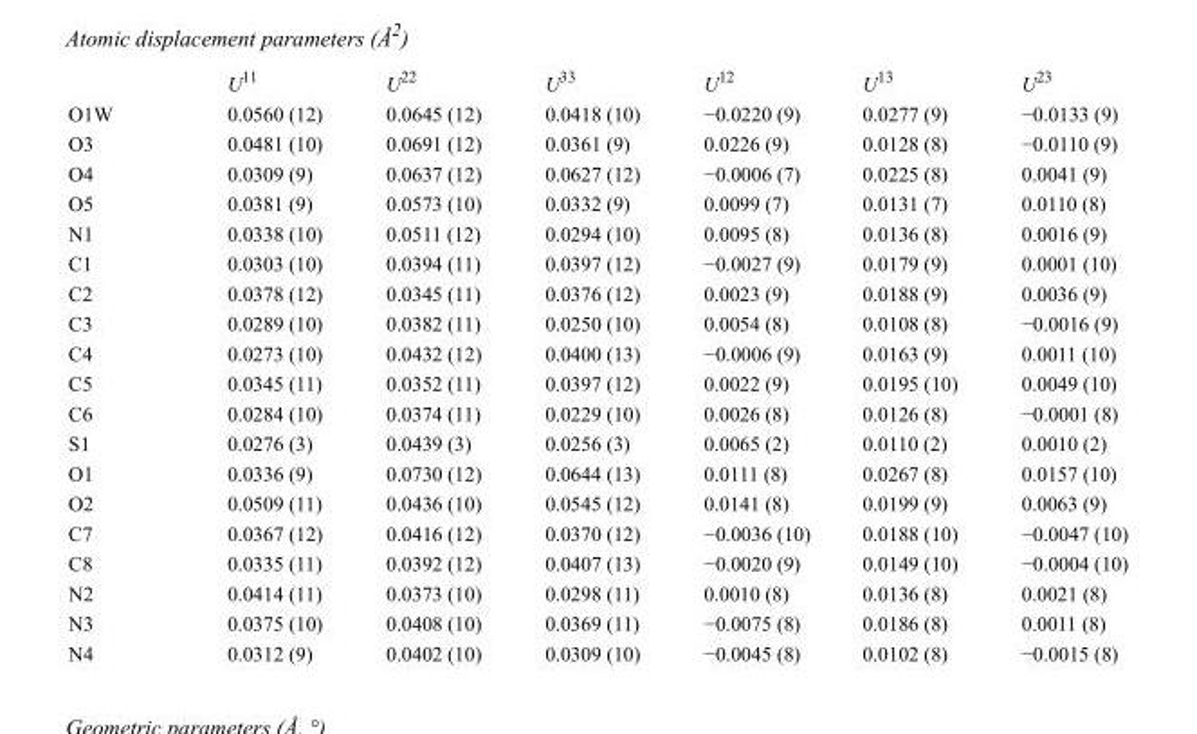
<table><thead><tr><td></td><td>U<sup>11</sup></td><td>U<sup>22</sup></td><td>U<sup>33</sup></td><td>U<sup>12</sup></td><td>U<sup>13</sup></td><td>U<sup>23</sup></td></tr></thead><tbody><tr><td>O1W</td><td>0.0560 (12)</td><td>0.0645 (12)</td><td>0.0418 (10)</td><td>−0.0220 (9)</td><td>0.0277 (9)</td><td>−0.0133 (9)</td></tr><tr><td>O3</td><td>0.0481 (10)</td><td>0.0691 (12)</td><td>0.0361 (9)</td><td>0.0226 (9)</td><td>0.0128 (8)</td><td>−0.0110 (9)</td></tr><tr><td>O4</td><td>0.0309 (9)</td><td>0.0637 (12)</td><td>0.0627 (12)</td><td>−0.0006 (7)</td><td>0.0225 (8)</td><td>0.0041 (9)</td></tr><tr><td>O5</td><td>0.0381 (9)</td><td>0.0573 (10)</td><td>0.0332 (9)</td><td>0.0099 (7)</td><td>0.0131 (7)</td><td>0.0110 (8)</td></tr><tr><td>N1</td><td>0.0338 (10)</td><td>0.0511 (12)</td><td>0.0294 (10)</td><td>0.0095 (8)</td><td>0.0136 (8)</td><td>0.0016 (9)</td></tr><tr><td>C1</td><td>0.0303 (10)</td><td>0.0394 (11)</td><td>0.0397 (12)</td><td>−0.0027 (9)</td><td>0.0179 (9)</td><td>0.0001 (10)</td></tr><tr><td>C2</td><td>0.0378 (12)</td><td>0.0345 (11)</td><td>0.0376 (12)</td><td>0.0023 (9)</td><td>0.0188 (9)</td><td>0.0036 (9)</td></tr><tr><td>C3</td><td>0.0289 (10)</td><td>0.0382 (11)</td><td>0.0250 (10)</td><td>0.0054 (8)</td><td>0.0108 (8)</td><td>−0.0016 (9)</td></tr><tr><td>C4</td><td>0.0273 (10)</td><td>0.0432 (12)</td><td>0.0400 (13)</td><td>−0.0006 (9)</td><td>0.0163 (9)</td><td>0.0011 (10)</td></tr><tr><td>C5</td><td>0.0345 (11)</td><td>0.0352 (11)</td><td>0.0397 (12)</td><td>0.0022 (9)</td><td>0.0195 (10)</td><td>0.0049 (10)</td></tr><tr><td>C6</td><td>0.0284 (10)</td><td>0.0374 (11)</td><td>0.0229 (10)</td><td>0.0026 (8)</td><td>0.0126 (8)</td><td>−0.0001 (8)</td></tr><tr><td>S1</td><td>0.0276 (3)</td><td>0.0439 (3)</td><td>0.0256 (3)</td><td>0.0065 (2)</td><td>0.0110 (2)</td><td>0.0010 (2)</td></tr><tr><td>O1</td><td>0.0336 (9)</td><td>0.0730 (12)</td><td>0.0644 (13)</td><td>0.0111 (8)</td><td>0.0267 (8)</td><td>0.0157 (10)</td></tr><tr><td>O2</td><td>0.0509 (11)</td><td>0.0436 (10)</td><td>0.0545 (12)</td><td>0.0141 (8)</td><td>0.0199 (9)</td><td>0.0063 (9)</td></tr><tr><td>C7</td><td>0.0367 (12)</td><td>0.0416 (12)</td><td>0.0370 (12)</td><td>−0.0036 (10)</td><td>0.0188 (10)</td><td>−0.0047 (10)</td></tr><tr><td>C8</td><td>0.0335 (11)</td><td>0.0392 (12)</td><td>0.0407 (13)</td><td>−0.0020 (9)</td><td>0.0149 (10)</td><td>−0.0004 (10)</td></tr><tr><td>N2</td><td>0.0414 (11)</td><td>0.0373 (10)</td><td>0.0298 (11)</td><td>0.0010 (8)</td><td>0.0136 (8)</td><td>0.0021 (8)</td></tr><tr><td>N3</td><td>0.0375 (10)</td><td>0.0408 (10)</td><td>0.0369 (11)</td><td>−0.0075 (8)</td><td>0.0186 (8)</td><td>0.0011 (8)</td></tr><tr><td>N4</td><td>0.0312 (9)</td><td>0.0402 (10)</td><td>0.0309 (10)</td><td>−0.0045 (8)</td><td>0.0102 (8)</td><td>−0.0015 (8)</td></tr></tbody></table>